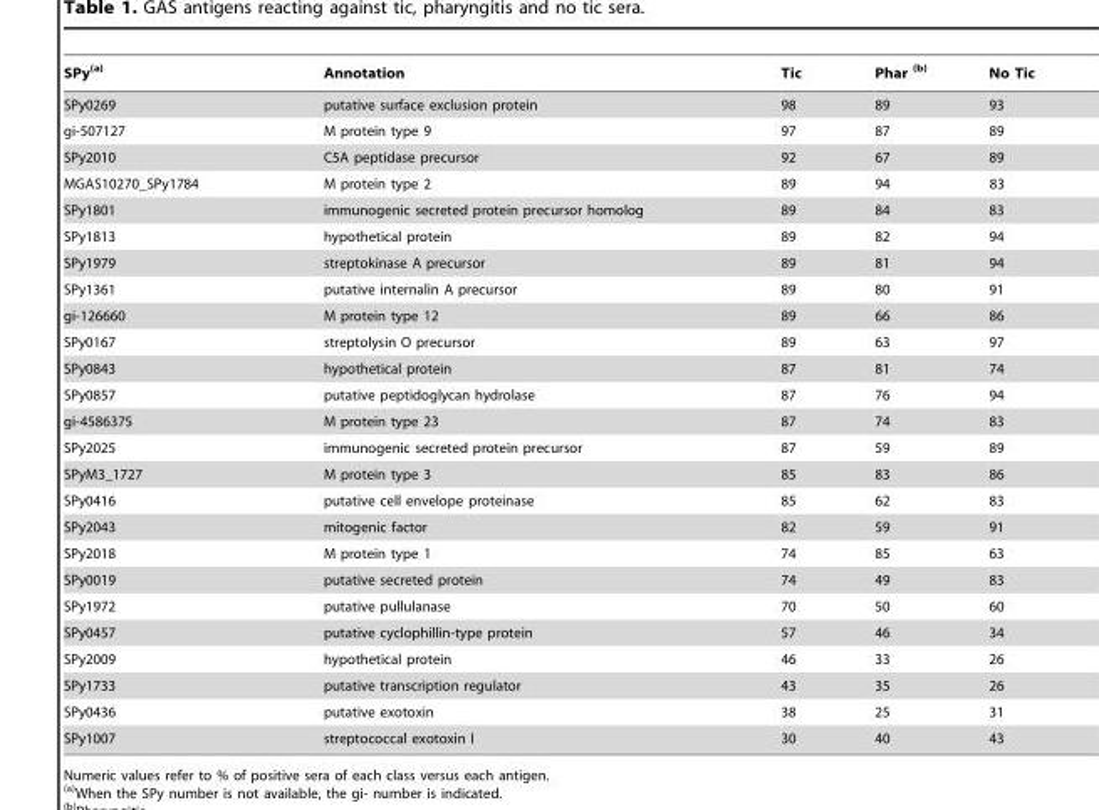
<table><thead><tr><td>SPy(a)</td><td>Annotation</td><td>Tic</td><td>Phar (b)</td><td>No Tic</td></tr></thead><tbody><tr><td>SPy0269</td><td>putative surface exclusion protein</td><td>98</td><td>89</td><td>93</td></tr><tr><td>gi-507127</td><td>M protein type 9</td><td>97</td><td>87</td><td>89</td></tr><tr><td>SPy2010</td><td>C5A peptidase precursor</td><td>92</td><td>67</td><td>89</td></tr><tr><td>MGAS10270_SPy1784</td><td>M protein type 2</td><td>89</td><td>94</td><td>83</td></tr><tr><td>SPy1801</td><td>immunogenic secreted protein precursor homolog</td><td>89</td><td>84</td><td>83</td></tr><tr><td>SPy1813</td><td>hypothetical protein</td><td>89</td><td>82</td><td>94</td></tr><tr><td>SPy1979</td><td>streptokinase A precursor</td><td>89</td><td>81</td><td>94</td></tr><tr><td>SPy1361</td><td>putative internalin A precursor</td><td>89</td><td>80</td><td>91</td></tr><tr><td>gi-126660</td><td>M protein type 12</td><td>89</td><td>66</td><td>86</td></tr><tr><td>SPy0167</td><td>streptolysin O precursor</td><td>89</td><td>63</td><td>97</td></tr><tr><td>SPy0843</td><td>hypothetical protein</td><td>87</td><td>81</td><td>74</td></tr><tr><td>SPy0857</td><td>putative peptidoglycan hydrolase</td><td>87</td><td>76</td><td>94</td></tr><tr><td>gi-4586375</td><td>M protein type 23</td><td>87</td><td>74</td><td>83</td></tr><tr><td>SPy2025</td><td>immunogenic secreted protein precursor</td><td>87</td><td>59</td><td>89</td></tr><tr><td>SPyM3_1727</td><td>M protein type 3</td><td>85</td><td>83</td><td>86</td></tr><tr><td>SPy0416</td><td>putative cell envelope proteinase</td><td>85</td><td>62</td><td>83</td></tr><tr><td>SPy2043</td><td>mitogenic factor</td><td>82</td><td>59</td><td>91</td></tr><tr><td>SPy2018</td><td>M protein type 1</td><td>74</td><td>85</td><td>63</td></tr><tr><td>SPy0019</td><td>putative secreted protein</td><td>74</td><td>49</td><td>83</td></tr><tr><td>SPy1972</td><td>putative pullulanase</td><td>70</td><td>50</td><td>60</td></tr><tr><td>SPy0457</td><td>putative cyclophillin-type protein</td><td>57</td><td>46</td><td>34</td></tr><tr><td>SPy2009</td><td>hypothetical protein</td><td>46</td><td>33</td><td>26</td></tr><tr><td>SPy1733</td><td>putative transcription regulator</td><td>43</td><td>35</td><td>26</td></tr><tr><td>SPy0436</td><td>putative exotoxin</td><td>38</td><td>25</td><td>31</td></tr><tr><td>SPy1007</td><td>streptococcal exotoxin I</td><td>30</td><td>40</td><td>43</td></tr></tbody></table>